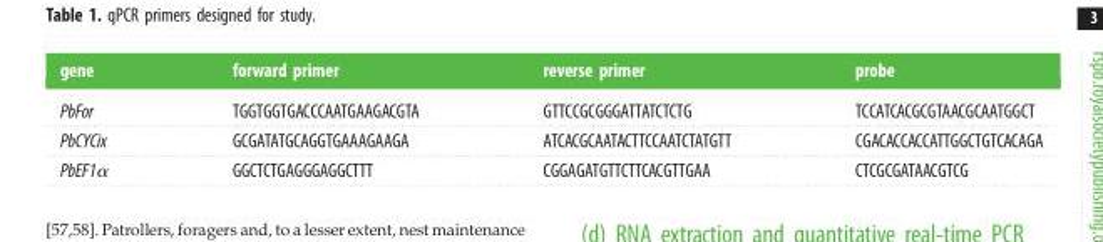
<table><thead><tr><td>gene</td><td>forward primer</td><td>reverse primer</td><td>probe</td></tr></thead><tbody><tr><td>PbFor</td><td>TGGTGGTGACCCAATGAAGACGTA</td><td>GTTCCGCGGGATTATCTCTG</td><td>TCCATCACGCGTAACGCAATGGCT</td></tr><tr><td>PbCYCix</td><td>GCGATATGCAGGTGAAAGAAGA</td><td>ATCACGCAATACTTCCAATCTATGTT</td><td>CGACACCACCATTGGCTGTCACAGA</td></tr><tr><td>PbEF1α</td><td>GGCTCTGAGGGAGGCTTT</td><td>CGGAGATGTTCTTCACGTTGAA</td><td>CTCGCGATAACGTCG</td></tr></tbody></table>